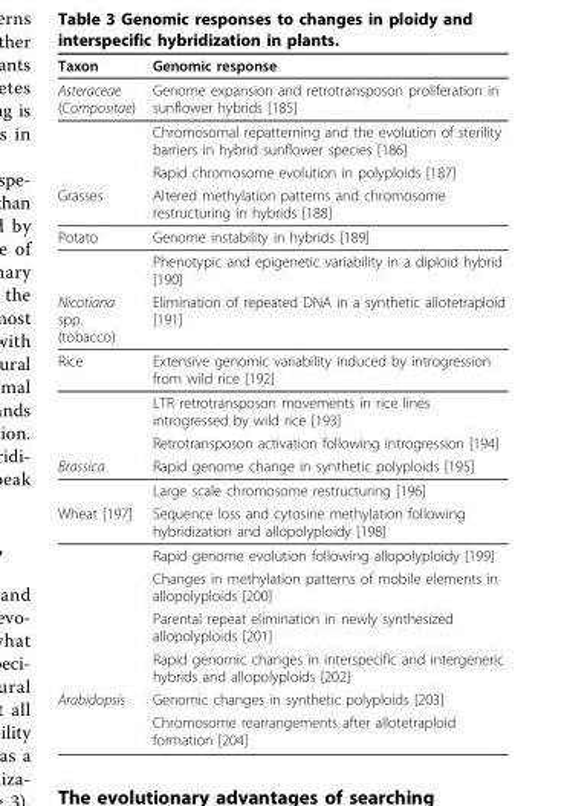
<table><thead><tr><td>Taxon</td><td>Genomic response</td></tr></thead><tbody><tr><td rowspan="3">Asteraceae (Compositae)</td><td>Genome expansion and retrotransposon proliferation in sunflower hybrids [185]</td></tr><tr><td>Chromosomal repatterning and the evolution of sterility barriers in hybrid sunflower species [186]</td></tr><tr><td>Rapid chromosome evolution in polyploids [187]</td></tr><tr><td>Grasses</td><td>Altered methylation patterns and chromosome restructuring in hybrids [188]</td></tr><tr><td rowspan="2">Potato</td><td>Genome instability in hybrids [189]</td></tr><tr><td>Phenotypic and epigenetic variability in a diploid hybrid [190]</td></tr><tr><td>Nicotiana spp. (tobacco)</td><td>Elimination of repeated DNA in a synthetic allotetraploid [191]</td></tr><tr><td rowspan="3">Rice</td><td>Extensive genomic variability induced by introgression from wild rice [192]</td></tr><tr><td>LTR retrotransposon movements in rice lines introgressed by wild rice [193]</td></tr><tr><td>Retrotransposon activation following introgression [194]</td></tr><tr><td rowspan="2">Brassica</td><td>Rapid genome change in synthetic polyploids [195]</td></tr><tr><td>Large scale chromosome restructuring [196]</td></tr><tr><td rowspan="5">Wheat [197]</td><td>Sequence loss and cytosine methylation following hybridization and allopolyploidy [198]</td></tr><tr><td>Rapid genome evolution following allopolyploidy [199]</td></tr><tr><td>Changes in methylation patterns of mobile elements in allopolyploids [200]</td></tr><tr><td>Parental repeat elimination in newly synthesized allopolyploids [201]</td></tr><tr><td>Rapid genomic changes in interspecific and intergeneric hybrids and allopolyploids [202]</td></tr><tr><td rowspan="2">Arabidopsis</td><td>Genomic changes in synthetic polyploids [203]</td></tr><tr><td>Chromosome rearrangements after allotetraploid formation [204]</td></tr></tbody></table>